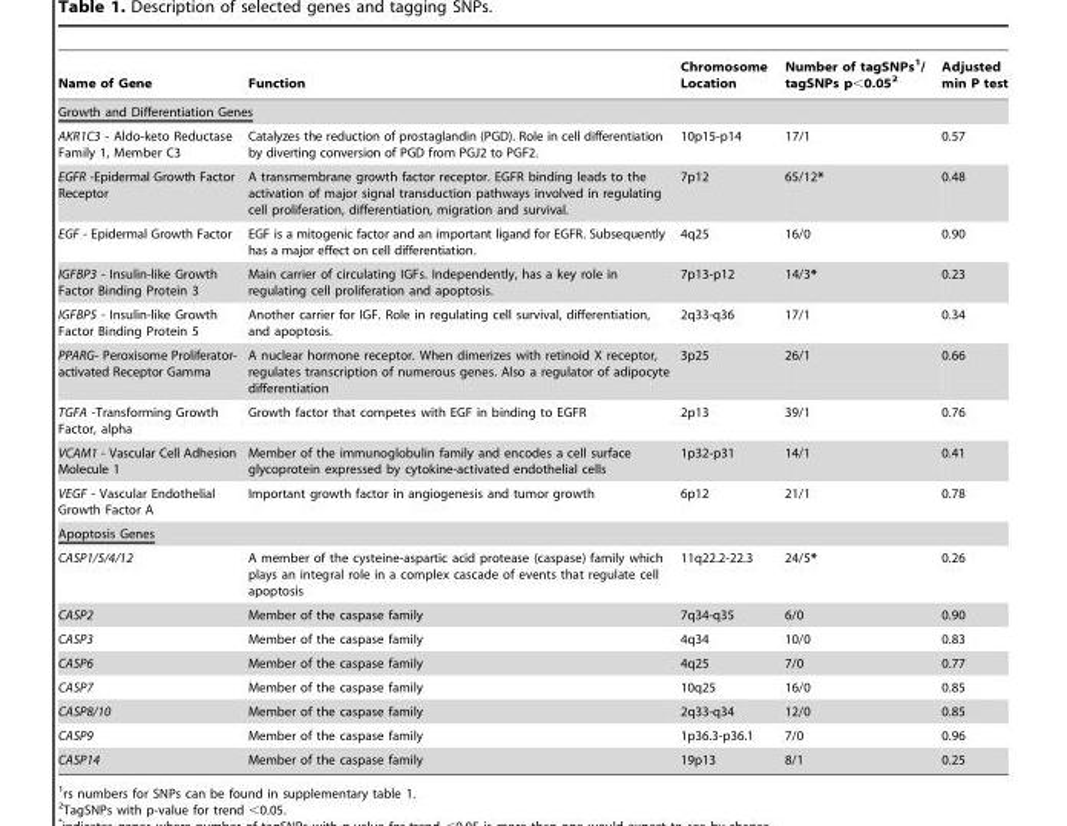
<table><thead><tr><td>Name of Gene</td><td>Function</td><td>Chromosome Location</td><td>Number of tagSNPs<sup>1</sup>/ tagSNPs p&lt;0.05<sup>2</sup></td><td>Adjusted min P test</td></tr></thead><tbody><tr><td colspan="5">Growth and Differentiation Genes</td></tr><tr><td>AKR1C3 - Aldo-keto Reductase Family 1, Member C3</td><td>Catalyzes the reduction of prostaglandin (PGD). Role in cell differentiation by diverting conversion of PGD from PGJ2 to PGF2.</td><td>10p15-p14</td><td>17/1</td><td>0.57</td></tr><tr><td>EGFR -Epidermal Growth Factor Receptor</td><td>A transmembrane growth factor receptor. EGFR binding leads to the activation of major signal transduction pathways involved in regulating cell proliferation, differentiation, migration and survival.</td><td>7p12</td><td>65/12*</td><td>0.48</td></tr><tr><td>EGF - Epidermal Growth Factor</td><td>EGF is a mitogenic factor and an important ligand for EGFR. Subsequently has a major effect on cell differentiation.</td><td>4q25</td><td>16/0</td><td>0.90</td></tr><tr><td>IGFBP3 - Insulin-like Growth Factor Binding Protein 3</td><td>Main carrier of circulating IGFs. Independently, has a key role in regulating cell proliferation and apoptosis.</td><td>7p13-p12</td><td>14/3*</td><td>0.23</td></tr><tr><td>IGFBP5 - Insulin-like Growth Factor Binding Protein 5</td><td>Another carrier for IGF. Role in regulating cell survival, differentiation, and apoptosis.</td><td>2q33-q36</td><td>17/1</td><td>0.34</td></tr><tr><td>PPARG- Peroxisome Proliferator- activated Receptor Gamma</td><td>A nuclear hormone receptor. When dimerizes with retinoid X receptor, regulates transcription of numerous genes. Also a regulator of adipocyte differentiation</td><td>3p25</td><td>26/1</td><td>0.66</td></tr><tr><td>TGFA -Transforming Growth Factor, alpha</td><td>Growth factor that competes with EGF in binding to EGFR</td><td>2p13</td><td>39/1</td><td>0.76</td></tr><tr><td>VCAM1 - Vascular Cell Adhesion Molecule 1</td><td>Member of the immunoglobulin family and encodes a cell surface glycoprotein expressed by cytokine-activated endothelial cells</td><td>1p32-p31</td><td>14/1</td><td>0.41</td></tr><tr><td>VEGF - Vascular Endothelial Growth Factor A</td><td>Important growth factor in angiogenesis and tumor growth</td><td>6p12</td><td>21/1</td><td>0.78</td></tr><tr><td colspan="5">Apoptosis Genes</td></tr><tr><td>CASP1/5/4/12</td><td>A member of the cysteine-aspartic acid protease (caspase) family which plays an integral role in a complex cascade of events that regulate cell apoptosis</td><td>11q22.2-22.3</td><td>24/5*</td><td>0.26</td></tr><tr><td>CASP2</td><td>Member of the caspase family</td><td>7q34-q35</td><td>6/0</td><td>0.90</td></tr><tr><td>CASP3</td><td>Member of the caspase family</td><td>4q34</td><td>10/0</td><td>0.83</td></tr><tr><td>CASP6</td><td>Member of the caspase family</td><td>4q25</td><td>7/0</td><td>0.77</td></tr><tr><td>CASP7</td><td>Member of the caspase family</td><td>10q25</td><td>16/0</td><td>0.85</td></tr><tr><td>CASP8/10</td><td>Member of the caspase family</td><td>2q33-q34</td><td>12/0</td><td>0.85</td></tr><tr><td>CASP9</td><td>Member of the caspase family</td><td>1p36.3-p36.1</td><td>7/0</td><td>0.96</td></tr><tr><td>CASP14</td><td>Member of the caspase family</td><td>19p13</td><td>8/1</td><td>0.25</td></tr></tbody></table>